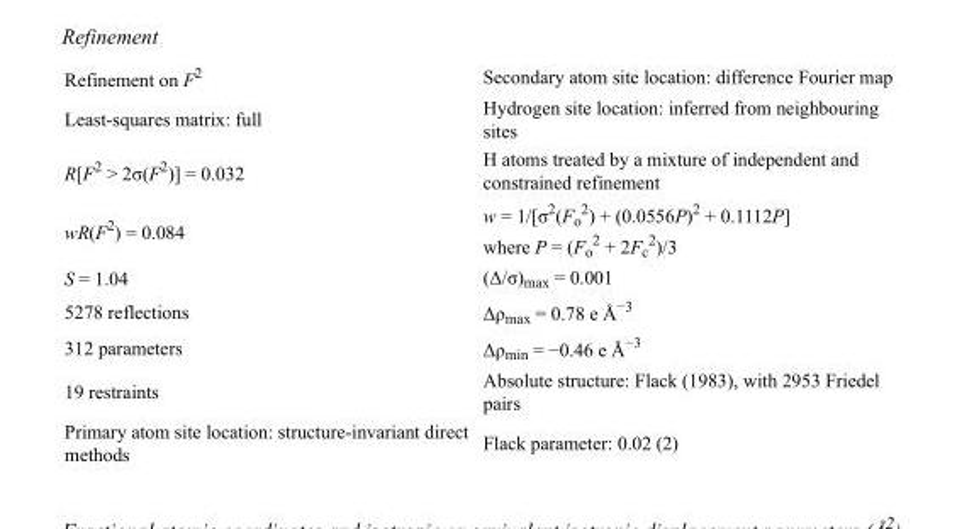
<table><tbody><tr><td>Refinement on F<sup>2</sup></td><td>Secondary atom site location: difference Fourier map</td></tr><tr><td>Least-squares matrix: full</td><td>Hydrogen site location: inferred from neighbouring sites</td></tr><tr><td>R[F<sup>2</sup> &gt; 2σ(F<sup>2</sup>)] = 0.032</td><td>H atoms treated by a mixture of independent and constrained refinement</td></tr><tr><td>wR(F<sup>2</sup>) = 0.084</td><td>w = 1/[σ<sup>2</sup>(F<sub>o</sub> <sup>2</sup>) + (0.0556P)<sup>2</sup> + 0.1112P] where P = (F<sub>o</sub> <sup>2</sup> + 2F<sub>c</sub> <sup>2</sup>)/3</td></tr><tr><td>S = 1.04</td><td>(Δ/σ)<sub>max</sub> = 0.001</td></tr><tr><td>5278 reflections</td><td>Δρ<sub>max</sub> = 0.78 e Å<sup>−3</sup></td></tr><tr><td>312 parameters</td><td>Δρ<sub>min</sub> = −0.46 e Å<sup>−3</sup></td></tr><tr><td>19 restraints</td><td>Absolute structure: Flack (1983), with 2953 Friedel pairs</td></tr><tr><td>Primary atom site location: structure-invariant direct methods</td><td>Flack parameter: 0.02 (2)</td></tr></tbody></table>